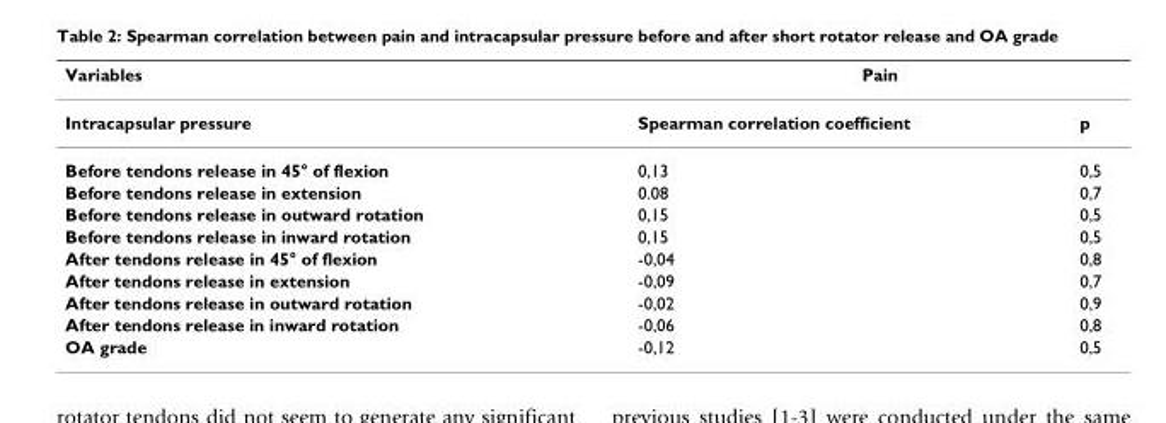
<table><thead><tr><td rowspan="2">Variables Intracapsular pressure</td><td colspan="2">Pain</td></tr><tr><td>Spearman correlation coefficient</td><td>p</td></tr></thead><tbody><tr><td>Before tendons release in 45° of flexion</td><td>0,13</td><td>0,5</td></tr><tr><td>Before tendons release in extension</td><td>0.08</td><td>0,7</td></tr><tr><td>Before tendons release in outward rotation</td><td>0,15</td><td>0,5</td></tr><tr><td>Before tendons release in inward rotation</td><td>0,15</td><td>0,5</td></tr><tr><td>After tendons release in 45° of flexion</td><td>-0,04</td><td>0,8</td></tr><tr><td>After tendons release in extension</td><td>-0,09</td><td>0,7</td></tr><tr><td>After tendons release in outward rotation</td><td>-0,02</td><td>0,9</td></tr><tr><td>After tendons release in inward rotation</td><td>-0,06</td><td>0,8</td></tr><tr><td>OA grade</td><td>-0,12</td><td>0,5</td></tr></tbody></table>